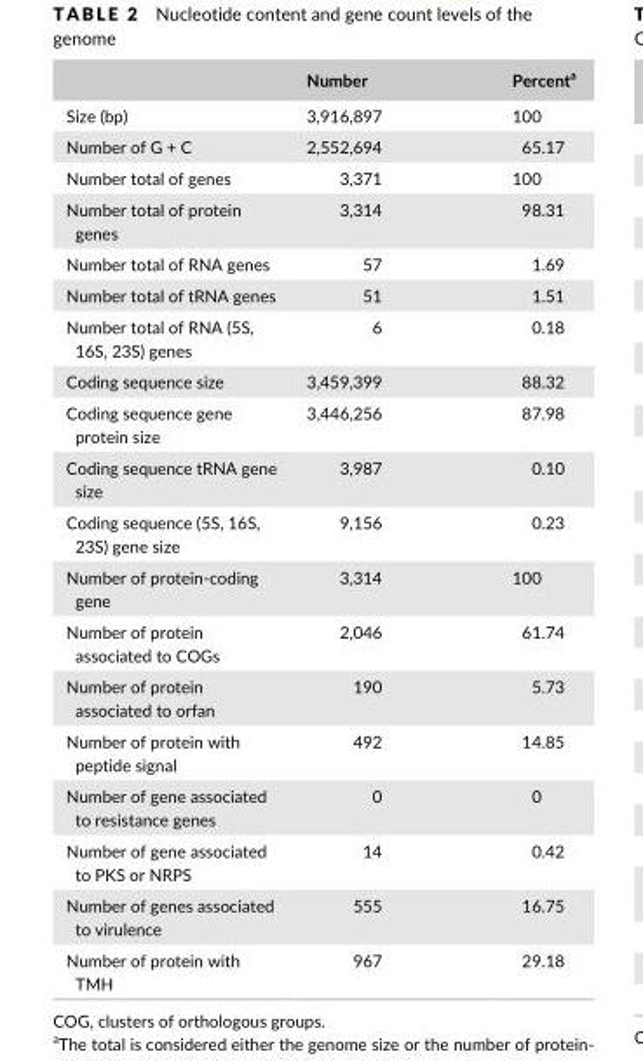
<table><thead><tr><td></td><td>Number</td><td>Percent<sup>a</sup></td></tr></thead><tbody><tr><td>Size (bp)</td><td>3,916,897</td><td>100</td></tr><tr><td>Number of G + C</td><td>2,552,694</td><td>65.17</td></tr><tr><td>Number total of genes</td><td>3,371</td><td>100</td></tr><tr><td>Number total of protein genes</td><td>3,314</td><td>98.31</td></tr><tr><td>Number total of RNA genes</td><td>57</td><td>1.69</td></tr><tr><td>Number total of tRNA genes</td><td>51</td><td>1.51</td></tr><tr><td>Number total of RNA (5S, 16S, 23S) genes</td><td>6</td><td>0.18</td></tr><tr><td>Coding sequence size</td><td>3,459,399</td><td>88.32</td></tr><tr><td>Coding sequence gene protein size</td><td>3,446,256</td><td>87.98</td></tr><tr><td>Coding sequence tRNA gene size</td><td>3,987</td><td>0.10</td></tr><tr><td>Coding sequence (5S, 16S, 23S) gene size</td><td>9,156</td><td>0.23</td></tr><tr><td>Number of protein- coding gene</td><td>3,314</td><td>100</td></tr><tr><td>Number of protein associated to COGs</td><td>2,046</td><td>61.74</td></tr><tr><td>Number of protein associated to orfan</td><td>190</td><td>5.73</td></tr><tr><td>Number of protein with peptide signal</td><td>492</td><td>14.85</td></tr><tr><td>Number of gene associated to resistance genes</td><td>0</td><td>0</td></tr><tr><td>Number of gene associated to PKS or NRPS</td><td>14</td><td>0.42</td></tr><tr><td>Number of genes associated to virulence</td><td>555</td><td>16.75</td></tr><tr><td>Number of protein with TMH</td><td>967</td><td>29.18</td></tr></tbody></table>